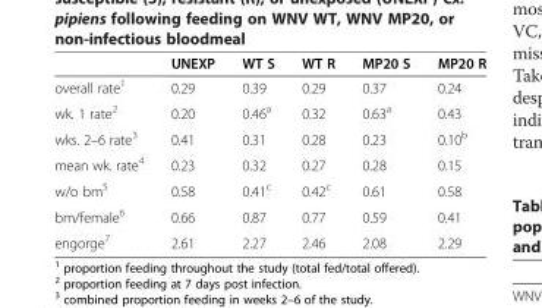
<table><thead><tr><td></td><td>UNEXP</td><td>WT S</td><td>WT R</td><td>MP20 S</td><td>MP20 R</td></tr></thead><tbody><tr><td>overall rate<sup>1</sup></td><td>0.29</td><td>0.39</td><td>0.29</td><td>0.37</td><td>0.24</td></tr><tr><td>wk. 1 rate<sup>2</sup></td><td>0.20</td><td>0.46<sup>a</sup></td><td>0.32</td><td>0.63<sup>a</sup></td><td>0.43</td></tr><tr><td>wks. 2–6 rate<sup>3</sup></td><td>0.41</td><td>0.31</td><td>0.28</td><td>0.23</td><td>0.10<sup>b</sup></td></tr><tr><td>mean wk. rate<sup>4</sup></td><td>0.23</td><td>0.32</td><td>0.27</td><td>0.28</td><td>0.15</td></tr><tr><td>w/o bm<sup>5</sup></td><td>0.58</td><td>0.41<sup>c</sup></td><td>0.42<sup>c</sup></td><td>0.61</td><td>0.58</td></tr><tr><td>bm/female<sup>6</sup></td><td>0.66</td><td>0.87</td><td>0.77</td><td>0.59</td><td>0.41</td></tr><tr><td>engorge<sup>7</sup></td><td>2.61</td><td>2.27</td><td>2.46</td><td>2.08</td><td>2.29</td></tr></tbody></table>